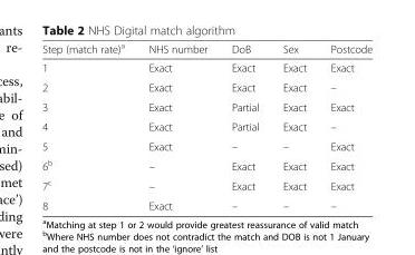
<table><thead><tr><td>Step (match rate)<sup>a</sup></td><td>NHS number</td><td>DoB</td><td>Sex</td><td>Postcode</td></tr></thead><tbody><tr><td>1</td><td>Exact</td><td>Exact</td><td>Exact</td><td>Exact</td></tr><tr><td>2</td><td>Exact</td><td>Exact</td><td>Exact</td><td>–</td></tr><tr><td>3</td><td>Exact</td><td>Partial</td><td>Exact</td><td>Exact</td></tr><tr><td>4</td><td>Exact</td><td>Partial</td><td>Exact</td><td>–</td></tr><tr><td>5</td><td>Exact</td><td>–</td><td>–</td><td>Exact</td></tr><tr><td>6<sup>b</sup></td><td>–</td><td>Exact</td><td>Exact</td><td>Exact</td></tr><tr><td>7<sup>c</sup></td><td>–</td><td>Exact</td><td>Exact</td><td>Exact</td></tr><tr><td>8</td><td>Exact</td><td>–</td><td>–</td><td>–</td></tr></tbody></table>